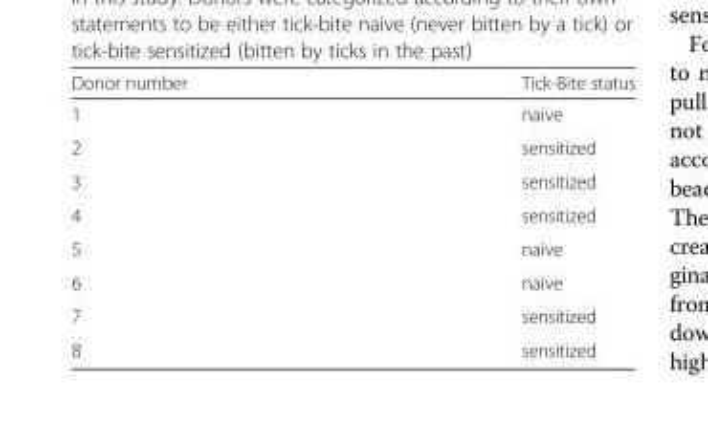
<table><thead><tr><td>Donor number</td><td>Tick-Bite status</td></tr></thead><tbody><tr><td>1</td><td>naive</td></tr><tr><td>2</td><td>sensitized</td></tr><tr><td>3</td><td>sensitized</td></tr><tr><td>4</td><td>sensitized</td></tr><tr><td>5</td><td>naive</td></tr><tr><td>6</td><td>naive</td></tr><tr><td>7</td><td>sensitized</td></tr><tr><td>8</td><td>sensitized</td></tr></tbody></table>